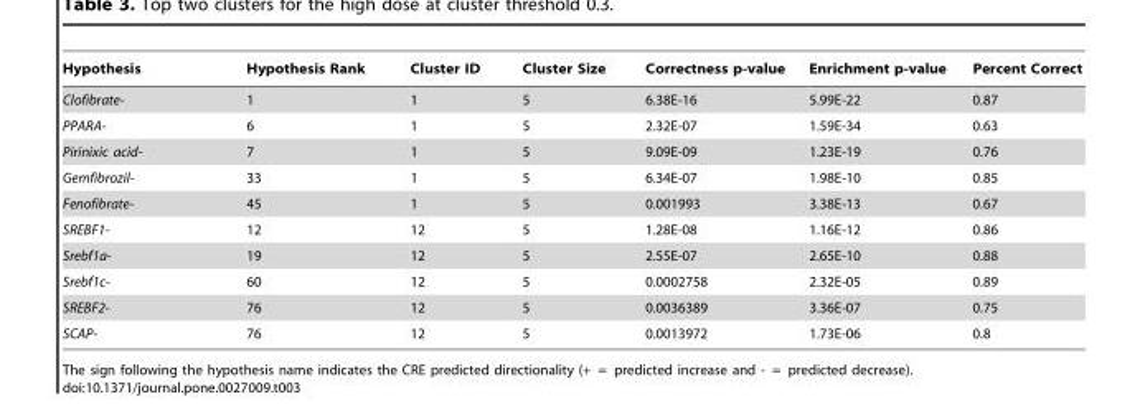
<table><thead><tr><td>Hypothesis</td><td>Hypothesis Rank</td><td>Cluster ID</td><td>Cluster Size</td><td>Correctness p-value</td><td>Enrichment p-value</td><td>Percent Correct</td></tr></thead><tbody><tr><td>Clofibrate-</td><td>1</td><td>1</td><td>5</td><td>6.38E-16</td><td>5.99E-22</td><td>0.87</td></tr><tr><td>PPARA-</td><td>6</td><td>1</td><td>5</td><td>2.32E-07</td><td>1.59E-34</td><td>0.63</td></tr><tr><td>Pirinixic acid-</td><td>7</td><td>1</td><td>5</td><td>9.09E-09</td><td>1.23E-19</td><td>0.76</td></tr><tr><td>Gemfibrozil-</td><td>33</td><td>1</td><td>5</td><td>6.34E-07</td><td>1.98E-10</td><td>0.85</td></tr><tr><td>Fenofibrate-</td><td>45</td><td>1</td><td>5</td><td>0.001993</td><td>3.38E-13</td><td>0.67</td></tr><tr><td>SREBF1-</td><td>12</td><td>12</td><td>5</td><td>1.28E-08</td><td>1.16E-12</td><td>0.86</td></tr><tr><td>Srebf1a-</td><td>19</td><td>12</td><td>5</td><td>2.55E-07</td><td>2.65E-10</td><td>0.88</td></tr><tr><td>Srebf1c-</td><td>60</td><td>12</td><td>5</td><td>0.0002758</td><td>2.32E-05</td><td>0.89</td></tr><tr><td>SREBF2-</td><td>76</td><td>12</td><td>5</td><td>0.0036389</td><td>3.36E-07</td><td>0.75</td></tr><tr><td>SCAP-</td><td>76</td><td>12</td><td>5</td><td>0.0013972</td><td>1.73E-06</td><td>0.8</td></tr></tbody></table>